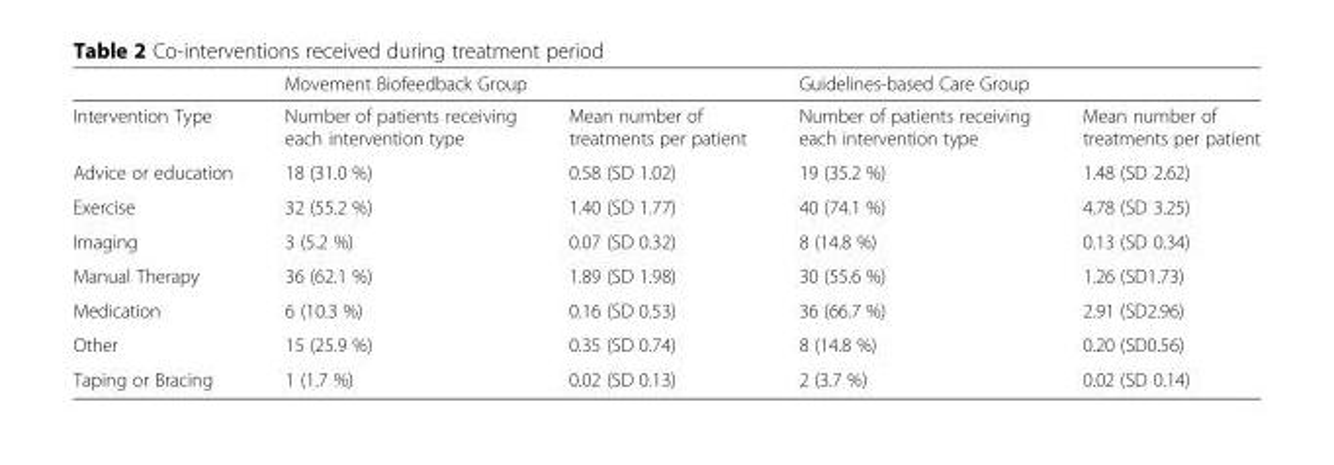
<table><thead><tr><td rowspan="2">Intervention Type</td><td colspan="2">Movement Biofeedback Group</td><td colspan="2">Guidelines-based Care Group</td></tr><tr><td>Number of patients receiving each intervention type</td><td>Mean number of treatments per patient</td><td>Number of patients receiving each intervention type</td><td>Mean number of treatments per patient</td></tr></thead><tbody><tr><td>Advice or education</td><td>18 (31.0 %)</td><td>0.58 (SD 1.02)</td><td>19 (35.2 %)</td><td>1.48 (SD 2.62)</td></tr><tr><td>Exercise</td><td>32 (55.2 %)</td><td>1.40 (SD 1.77)</td><td>40 (74.1 %)</td><td>4.78 (SD 3.25)</td></tr><tr><td>Imaging</td><td>3 (5.2 %)</td><td>0.07 (SD 0.32)</td><td>8 (14.8 %)</td><td>0.13 (SD 0.34)</td></tr><tr><td>Manual Therapy</td><td>36 (62.1 %)</td><td>1.89 (SD 1.98)</td><td>30 (55.6 %)</td><td>1.26 (SD1.73)</td></tr><tr><td>Medication</td><td>6 (10.3 %)</td><td>0.16 (SD 0.53)</td><td>36 (66.7 %)</td><td>2.91 (SD2.96)</td></tr><tr><td>Other</td><td>15 (25.9 %)</td><td>0.35 (SD 0.74)</td><td>8 (14.8 %)</td><td>0.20 (SD0.56)</td></tr><tr><td>Taping or Bracing</td><td>1 (1.7 %)</td><td>0.02 (SD 0.13)</td><td>2 (3.7 %)</td><td>0.02 (SD 0.14)</td></tr></tbody></table>